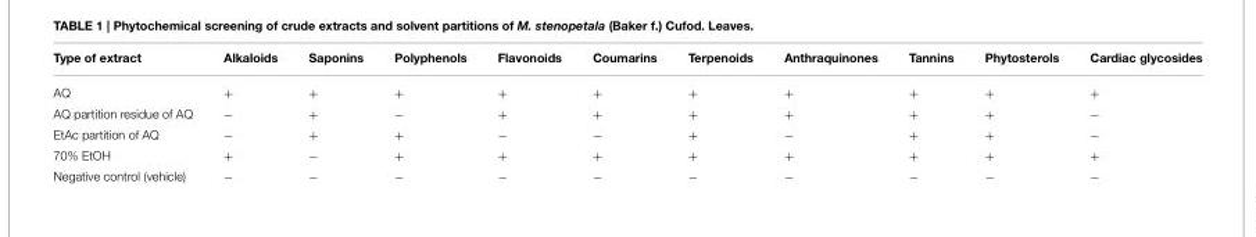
<table><thead><tr><td>Type of extract</td><td>Alkaloids</td><td>Saponins</td><td>Polyphenols</td><td>Flavonoids</td><td>Coumarins</td><td>Terpenoids</td><td>Anthraquinones</td><td>Tannins</td><td>Phytosterols</td><td>Cardiac glycosides</td></tr></thead><tbody><tr><td>AQ</td><td>+</td><td>+</td><td>+</td><td>+</td><td>+</td><td>+</td><td>+</td><td>+</td><td>+</td><td>+</td></tr><tr><td>AQ partition residue of AQ</td><td>−</td><td>+</td><td>−</td><td>+</td><td>+</td><td>+</td><td>+</td><td>+</td><td>+</td><td>−</td></tr><tr><td>EtAc partition of AQ</td><td>−</td><td>+</td><td>+</td><td>−</td><td>−</td><td>+</td><td>−</td><td>+</td><td>+</td><td>−</td></tr><tr><td>70% EtOH</td><td>+</td><td>−</td><td>+</td><td>+</td><td>+</td><td>+</td><td>+</td><td>+</td><td>+</td><td>+</td></tr><tr><td>Negative control (vehicle)</td><td>−</td><td>−</td><td>−</td><td>−</td><td>−</td><td>−</td><td>−</td><td>−</td><td>−</td><td>−</td></tr></tbody></table>